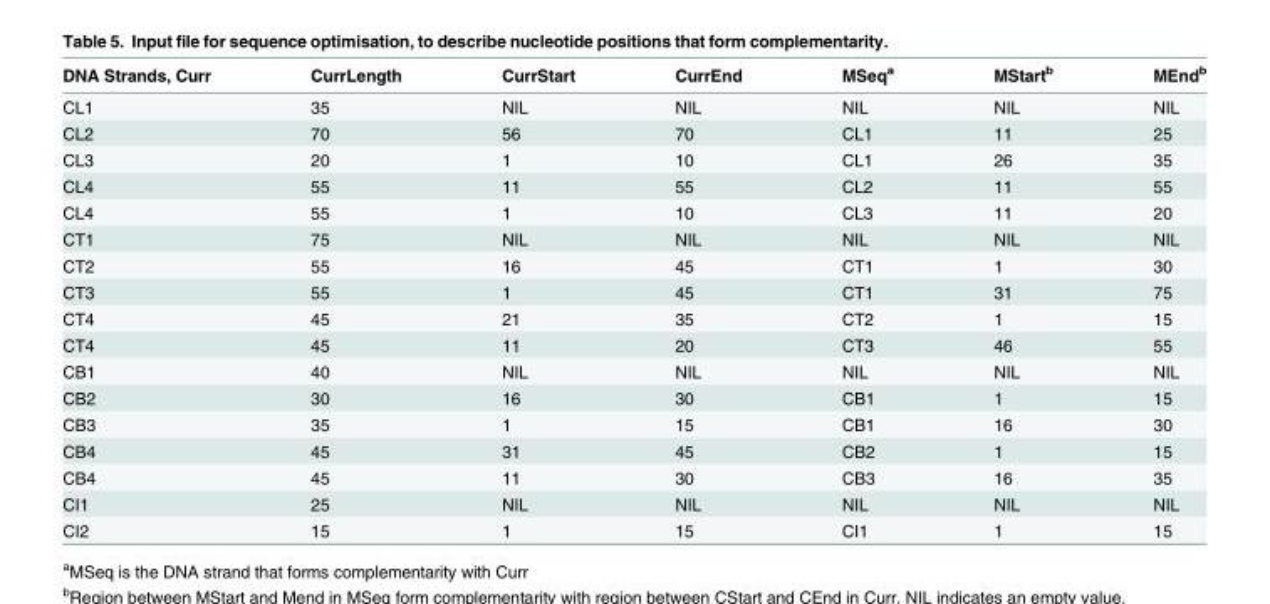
<table><thead><tr><td>DNA Strands, Curr</td><td>CurrLength</td><td>CurrStart</td><td>CurrEnd</td><td>MSeq<sup>a</sup></td><td>MStart<sup>b</sup></td><td>MEnd<sup>b</sup></td></tr></thead><tbody><tr><td>CL1</td><td>35</td><td>NIL</td><td>NIL</td><td>NIL</td><td>NIL</td><td>NIL</td></tr><tr><td>CL2</td><td>70</td><td>56</td><td>70</td><td>CL1</td><td>11</td><td>25</td></tr><tr><td>CL3</td><td>20</td><td>1</td><td>10</td><td>CL1</td><td>26</td><td>35</td></tr><tr><td>CL4</td><td>55</td><td>11</td><td>55</td><td>CL2</td><td>11</td><td>55</td></tr><tr><td>CL4</td><td>55</td><td>1</td><td>10</td><td>CL3</td><td>11</td><td>20</td></tr><tr><td>CT1</td><td>75</td><td>NIL</td><td>NIL</td><td>NIL</td><td>NIL</td><td>NIL</td></tr><tr><td>CT2</td><td>55</td><td>16</td><td>45</td><td>CT1</td><td>1</td><td>30</td></tr><tr><td>CT3</td><td>55</td><td>1</td><td>45</td><td>CT1</td><td>31</td><td>75</td></tr><tr><td>CT4</td><td>45</td><td>21</td><td>35</td><td>CT2</td><td>1</td><td>15</td></tr><tr><td>CT4</td><td>45</td><td>11</td><td>20</td><td>CT3</td><td>46</td><td>55</td></tr><tr><td>CB1</td><td>40</td><td>NIL</td><td>NIL</td><td>NIL</td><td>NIL</td><td>NIL</td></tr><tr><td>CB2</td><td>30</td><td>16</td><td>30</td><td>CB1</td><td>1</td><td>15</td></tr><tr><td>CB3</td><td>35</td><td>1</td><td>15</td><td>CB1</td><td>16</td><td>30</td></tr><tr><td>CB4</td><td>45</td><td>31</td><td>45</td><td>CB2</td><td>1</td><td>15</td></tr><tr><td>CB4</td><td>45</td><td>11</td><td>30</td><td>CB3</td><td>16</td><td>35</td></tr><tr><td>CI1</td><td>25</td><td>NIL</td><td>NIL</td><td>NIL</td><td>NIL</td><td>NIL</td></tr><tr><td>CI2</td><td>15</td><td>1</td><td>15</td><td>CI1</td><td>1</td><td>15</td></tr></tbody></table>